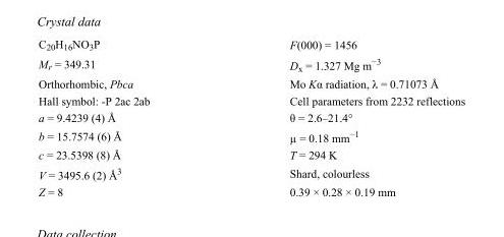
<table><tbody><tr><td>C<sub>20</sub>H<sub>16</sub>NO<sub>3</sub>P</td><td>F(000) = 1456</td></tr><tr><td>M<sub>r</sub> = 349.31</td><td>D<sub>x</sub> = 1.327 Mg m<sup>−3</sup></td></tr><tr><td>Orthorhombic, Pbca</td><td>Mo Kα radiation, λ = 0.71073 Å</td></tr><tr><td>Hall symbol: -P 2ac 2ab</td><td>Cell parameters from 2232 reflections</td></tr><tr><td>a = 9.4239 (4) Å</td><td>θ = 2.6–21.4°</td></tr><tr><td>b = 15.7574 (6) Å</td><td>µ = 0.18 mm<sup>−1</sup></td></tr><tr><td>c = 23.5398 (8) Å</td><td>T = 294 K</td></tr><tr><td>V = 3495.6 (2) Å<sup>3</sup></td><td>Shard, colourless</td></tr><tr><td>Z = 8</td><td>0.39 × 0.28 × 0.19 mm</td></tr></tbody></table>